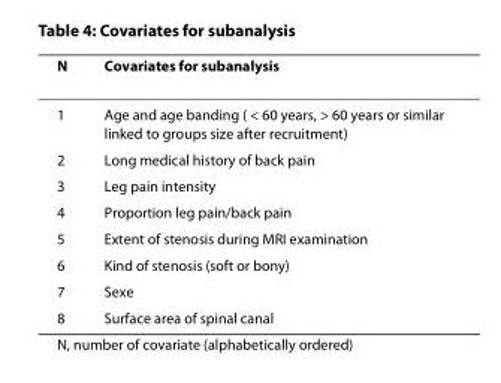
<table><thead><tr><td>N</td><td>Covariates for subanalysis</td></tr></thead><tbody><tr><td>1</td><td>Age and age banding ( &lt; 60 years, &gt; 60 years or similar linked to groups size after recruitment)</td></tr><tr><td>2</td><td>Long medical history of back pain</td></tr><tr><td>3</td><td>Leg pain intensity</td></tr><tr><td>4</td><td>Proportion leg pain/back pain</td></tr><tr><td>5</td><td>Extent of stenosis during MRI examination</td></tr><tr><td>6</td><td>Kind of stenosis (soft or bony)</td></tr><tr><td>7</td><td>Sexe</td></tr><tr><td>8</td><td>Surface area of spinal canal</td></tr></tbody></table>